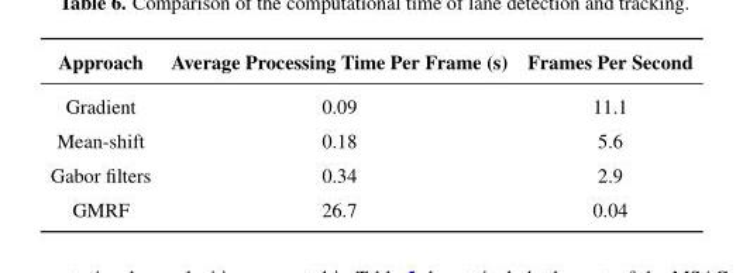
<table><thead><tr><td>Approach</td><td>Average Processing Time Per Frame (s)</td><td>Frames Per Second</td></tr></thead><tbody><tr><td>Gradient</td><td>0.09</td><td>11.1</td></tr><tr><td>Mean-shift</td><td>0.18</td><td>5.6</td></tr><tr><td>Gabor filters</td><td>0.34</td><td>2.9</td></tr><tr><td>GMRF</td><td>26.7</td><td>0.04</td></tr></tbody></table>